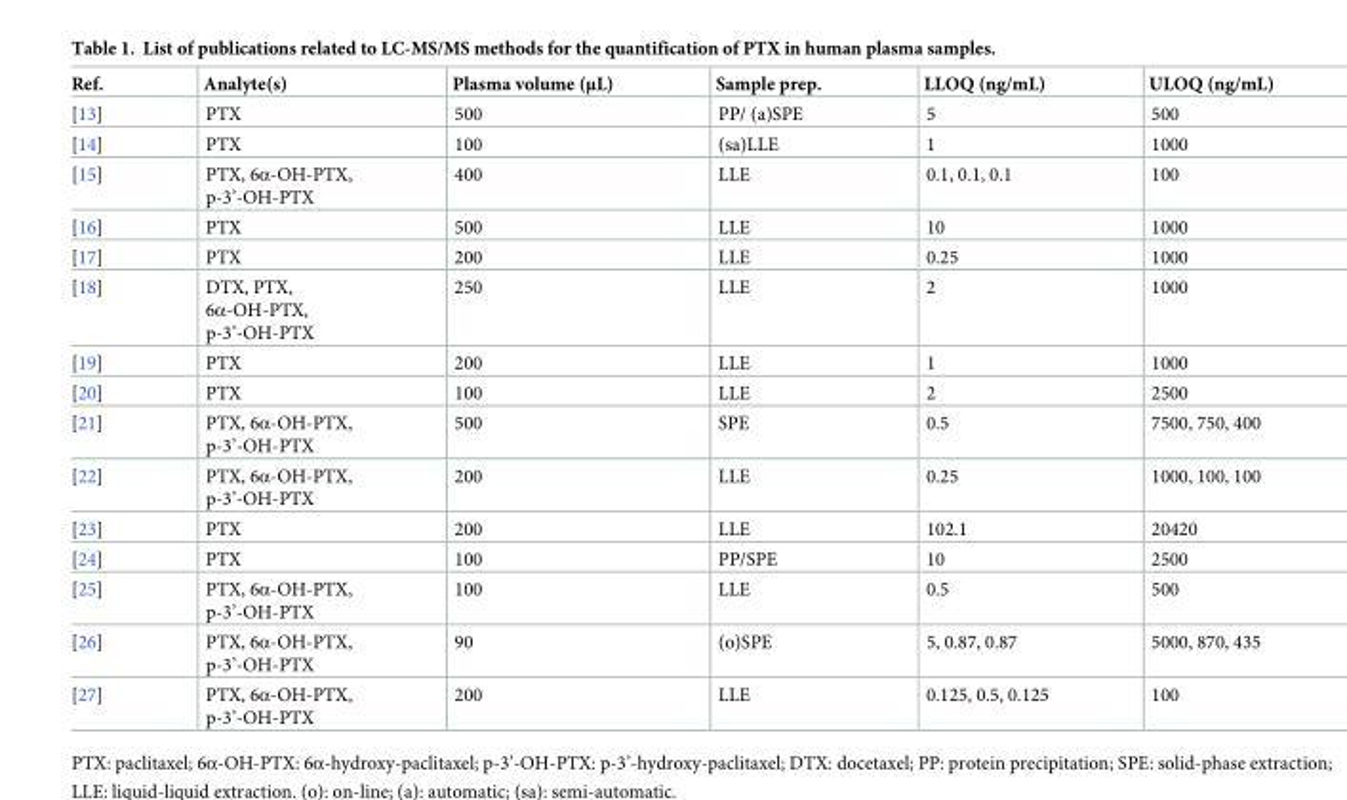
<table><thead><tr><td>Ref.</td><td>Analyte(s)</td><td>Plasma volume (μL)</td><td>Sample prep.</td><td>LLOQ (ng/mL)</td><td>ULOQ (ng/mL)</td></tr></thead><tbody><tr><td>[13]</td><td>PTX</td><td>500</td><td>PP/ (a)SPE</td><td>5</td><td>500</td></tr><tr><td>[14]</td><td>PTX</td><td>100</td><td>(sa)LLE</td><td>1</td><td>1000</td></tr><tr><td>[15]</td><td>PTX, 6α-OH-PTX, p-3’-OH-PTX</td><td>400</td><td>LLE</td><td>0.1, 0.1, 0.1</td><td>100</td></tr><tr><td>[16]</td><td>PTX</td><td>500</td><td>LLE</td><td>10</td><td>1000</td></tr><tr><td>[17]</td><td>PTX</td><td>200</td><td>LLE</td><td>0.25</td><td>1000</td></tr><tr><td>[18]</td><td>DTX, PTX, 6α-OH-PTX, p-3’-OH-PTX</td><td>250</td><td>LLE</td><td>2</td><td>1000</td></tr><tr><td>[19]</td><td>PTX</td><td>200</td><td>LLE</td><td>1</td><td>1000</td></tr><tr><td>[20]</td><td>PTX</td><td>100</td><td>LLE</td><td>2</td><td>2500</td></tr><tr><td>[21]</td><td>PTX, 6α-OH-PTX, p-3’-OH-PTX</td><td>500</td><td>SPE</td><td>0.5</td><td>7500, 750, 400</td></tr><tr><td>[22]</td><td>PTX, 6α-OH-PTX, p-3’-OH-PTX</td><td>200</td><td>LLE</td><td>0.25</td><td>1000, 100, 100</td></tr><tr><td>[23]</td><td>PTX</td><td>200</td><td>LLE</td><td>102.1</td><td>20420</td></tr><tr><td>[24]</td><td>PTX</td><td>100</td><td>PP/SPE</td><td>10</td><td>2500</td></tr><tr><td>[25]</td><td>PTX, 6α-OH-PTX, p-3’-OH-PTX</td><td>100</td><td>LLE</td><td>0.5</td><td>500</td></tr><tr><td>[26]</td><td>PTX, 6α-OH-PTX, p-3’-OH-PTX</td><td>90</td><td>(o)SPE</td><td>5, 0.87, 0.87</td><td>5000, 870, 435</td></tr><tr><td>[27]</td><td>PTX, 6α-OH-PTX, p-3’-OH-PTX</td><td>200</td><td>LLE</td><td>0.125, 0.5, 0.125</td><td>100</td></tr></tbody></table>